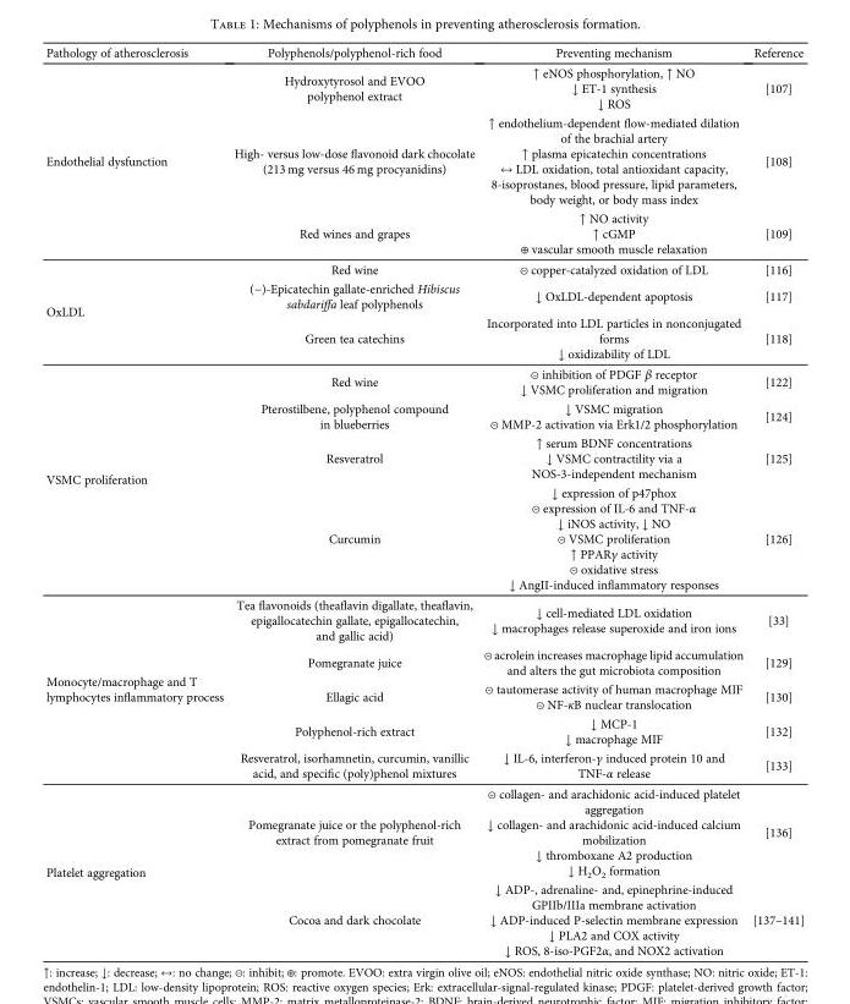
<table><thead><tr><td>Pathology of atherosclerosis</td><td>Polyphenols/polyphenol-rich food</td><td>Preventing mechanism</td><td>Reference</td></tr></thead><tbody><tr><td rowspan="3">Endothelial dysfunction</td><td>Hydroxytyrosol and EVOO polyphenol extract</td><td>↑ eNOS phosphorylation, ↑ NO ↓ ET-1 synthesis ↓ ROS</td><td>[107]</td></tr><tr><td>High- versus low-dose flavonoid dark chocolate (213 mg versus 46 mg procyanidins)</td><td>↑ endothelium-dependent flow-mediated dilation of the brachial artery ↑ plasma epicatechin concentrations ↔ LDL oxidation, total antioxidant capacity, 8-isoprostanes, blood pressure, lipid parameters, body weight, or body mass index</td><td>[108]</td></tr><tr><td>Red wines and grapes</td><td>↑ NO activity ↑ cGMP ⊕ vascular smooth muscle relaxation</td><td>[109]</td></tr><tr><td rowspan="3">OxLDL</td><td>Red wine</td><td>⊝ copper-catalyzed oxidation of LDL</td><td>[116]</td></tr><tr><td>(−)-Epicatechin gallate-enriched Hibiscus sabdariffa leaf polyphenols</td><td>↓ OxLDL-dependent apoptosis</td><td>[117]</td></tr><tr><td>Green tea catechins</td><td>Incorporated into LDL particles in nonconjugated forms ↓ oxidizability of LDL</td><td>[118]</td></tr><tr><td rowspan="4">VSMC proliferation</td><td>Red wine</td><td>⊝ inhibition of PDGF β receptor ↓ VSMC proliferation and migration</td><td>[122]</td></tr><tr><td>Pterostilbene, polyphenol compound in blueberries</td><td>↓ VSMC migration ⊝ MMP-2 activation via Erk1/2 phosphorylation</td><td>[124]</td></tr><tr><td>Resveratrol</td><td>↑ serum BDNF concentrations ↓ VSMC contractility via a NOS-3-independent mechanism</td><td>[125]</td></tr><tr><td>Curcumin</td><td>↓ expression of p47phox ⊝ expression of IL-6 and TNF-α ↓ iNOS activity, ↓ NO ⊝ VSMC proliferation ↑ PPARγ activity ⊝ oxidative stress ↓ AngII-induced inflammatory responses</td><td>[126]</td></tr><tr><td rowspan="5">Monocyte/macrophage and T lymphocytes inflammatory process</td><td>Tea flavonoids (theaflavin digallate, theaflavin, epigallocatechin gallate, epigallocatechin, and gallic acid)</td><td>↓ cell-mediated LDL oxidation ↓ macrophages release superoxide and iron ions</td><td>[33]</td></tr><tr><td>Pomegranate juice</td><td>⊝ acrolein increases macrophage lipid accumulation and alters the gut microbiota composition</td><td>[129]</td></tr><tr><td>Ellagic acid</td><td>⊝ tautomerase activity of human macrophage MIF ⊝ NF-κB nuclear translocation</td><td>[130]</td></tr><tr><td>Polyphenol-rich extract</td><td>↓ MCP-1 ↓ macrophage MIF</td><td>[132]</td></tr><tr><td>Resveratrol, isorhamnetin, curcumin, vanillic acid, and specific (poly)phenol mixtures</td><td>↓ IL-6, interferon-γ induced protein 10 and TNF-α release</td><td>[133]</td></tr><tr><td rowspan="2">Platelet aggregation</td><td>Pomegranate juice or the polyphenol-rich extract from pomegranate fruit</td><td>⊝ collagen- and arachidonic acid-induced platelet aggregation ↓ collagen- and arachidonic acid-induced calcium mobilization ↓ thromboxane A2 production ↓ H<sub>2</sub>O<sub>2</sub> formation</td><td>[136]</td></tr><tr><td>Cocoa and dark chocolate</td><td>↓ ADP-, adrenaline- and, epinephrine-induced GPIIb/IIIa membrane activation ↓ ADP-induced P-selectin membrane expression ↓ PLA2 and COX activity ↓ ROS, 8-iso-PGF2α, and NOX2 activation</td><td>[137–141]</td></tr></tbody></table>